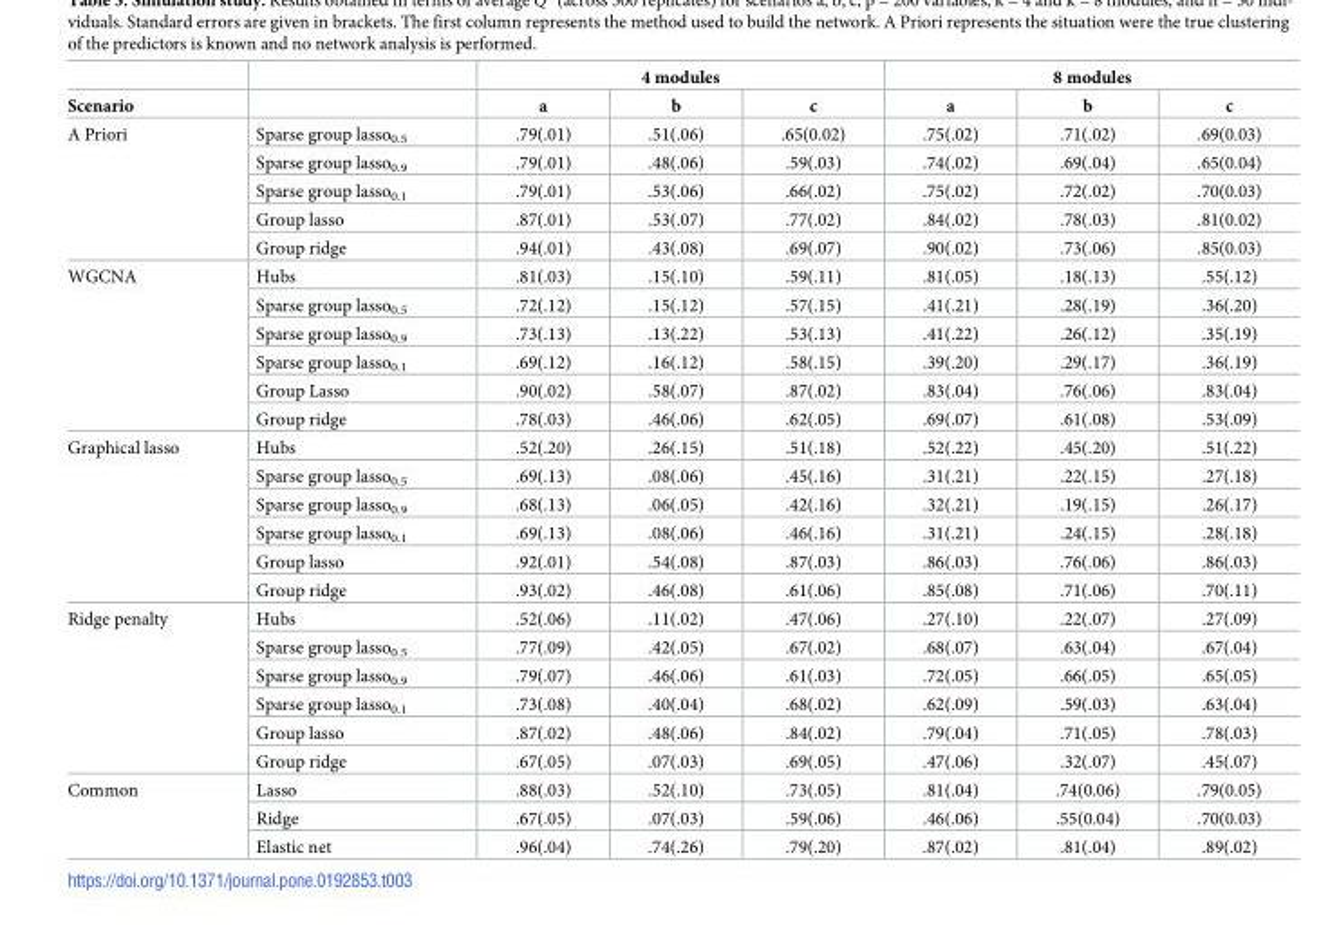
<table><thead><tr><td rowspan="2">Scenario</td><td rowspan="2"></td><td colspan="3">4 modules</td><td colspan="3">8 modules</td></tr><tr><td>a</td><td>b</td><td>c</td><td>a</td><td>b</td><td>c</td></tr></thead><tbody><tr><td rowspan="5">A Priori</td><td>Sparse group lasso<sub>0.5</sub></td><td>.79(.01)</td><td>.51(.06)</td><td>.65(0.02)</td><td>.75(.02)</td><td>.71(.02)</td><td>.69(0.03)</td></tr><tr><td>Sparse group lasso<sub>0.9</sub></td><td>.79(.01)</td><td>.48(.06)</td><td>.59(.03)</td><td>.74(.02)</td><td>.69(.04)</td><td>.65(0.04)</td></tr><tr><td>Sparse group lasso<sub>0.1</sub></td><td>.79(.01)</td><td>.53(.06)</td><td>.66(.02)</td><td>.75(.02)</td><td>.72(.02)</td><td>.70(0.03)</td></tr><tr><td>Group lasso</td><td>.87(.01)</td><td>.53(.07)</td><td>.77(.02)</td><td>.84(.02)</td><td>.78(.03)</td><td>.81(0.02)</td></tr><tr><td>Group ridge</td><td>.94(.01)</td><td>.43(.08)</td><td>.69(.07)</td><td>.90(.02)</td><td>.73(.06)</td><td>.85(0.03)</td></tr><tr><td rowspan="6">WGCNA</td><td>Hubs</td><td>.81(.03)</td><td>.15(.10)</td><td>.59(.11)</td><td>.81(.05)</td><td>.18(.13)</td><td>.55(.12)</td></tr><tr><td>Sparse group lasso<sub>0.5</sub></td><td>.72(.12)</td><td>.15(.12)</td><td>.57(.15)</td><td>.41(.21)</td><td>.28(.19)</td><td>.36(.20)</td></tr><tr><td>Sparse group lasso<sub>0.9</sub></td><td>.73(.13)</td><td>.13(.22)</td><td>.53(.13)</td><td>.41(.22)</td><td>.26(.12)</td><td>.35(.19)</td></tr><tr><td>Sparse group lasso<sub>0.1</sub></td><td>.69(.12)</td><td>.16(.12)</td><td>.58(.15)</td><td>.39(.20)</td><td>.29(.17)</td><td>.36(.19)</td></tr><tr><td>Group Lasso</td><td>.90(.02)</td><td>.58(.07)</td><td>.87(.02)</td><td>.83(.04)</td><td>.76(.06)</td><td>.83(.04)</td></tr><tr><td>Group ridge</td><td>.78(.03)</td><td>.46(.06)</td><td>.62(.05)</td><td>.69(.07)</td><td>.61(.08)</td><td>.53(.09)</td></tr><tr><td rowspan="6">Graphical lasso</td><td>Hubs</td><td>.52(.20)</td><td>.26(.15)</td><td>.51(.18)</td><td>.52(.22)</td><td>.45(.20)</td><td>.51(.22)</td></tr><tr><td>Sparse group lasso<sub>0.5</sub></td><td>.69(.13)</td><td>.08(.06)</td><td>.45(.16)</td><td>.31(.21)</td><td>.22(.15)</td><td>.27(.18)</td></tr><tr><td>Sparse group lasso<sub>0.9</sub></td><td>.68(.13)</td><td>.06(.05)</td><td>.42(.16)</td><td>.32(.21)</td><td>.19(.15)</td><td>.26(.17)</td></tr><tr><td>Sparse group lasso<sub>0.1</sub></td><td>.69(.13)</td><td>.08(.06)</td><td>.46(.16)</td><td>.31(.21)</td><td>.24(.15)</td><td>.28(.18)</td></tr><tr><td>Group lasso</td><td>.92(.01)</td><td>.54(.08)</td><td>.87(.03)</td><td>.86(.03)</td><td>.76(.06)</td><td>.86(.03)</td></tr><tr><td>Group ridge</td><td>.93(.02)</td><td>.46(.08)</td><td>.61(.06)</td><td>.85(.08)</td><td>.71(.06)</td><td>.70(.11)</td></tr><tr><td rowspan="6">Ridge penalty</td><td>Hubs</td><td>.52(.06)</td><td>.11(.02)</td><td>.47(.06)</td><td>.27(.10)</td><td>.22(.07)</td><td>.27(.09)</td></tr><tr><td>Sparse group lasso<sub>0.5</sub></td><td>.77(.09)</td><td>.42(.05)</td><td>.67(.02)</td><td>.68(.07)</td><td>.63(.04)</td><td>.67(.04)</td></tr><tr><td>Sparse group lasso<sub>0.9</sub></td><td>.79(.07)</td><td>.46(.06)</td><td>.61(.03)</td><td>.72(.05)</td><td>.66(.05)</td><td>.65(.05)</td></tr><tr><td>Sparse group lasso<sub>0.1</sub></td><td>.73(.08)</td><td>.40(.04)</td><td>.68(.02)</td><td>.62(.09)</td><td>.59(.03)</td><td>.63(.04)</td></tr><tr><td>Group lasso</td><td>.87(.02)</td><td>.48(.06)</td><td>.84(.02)</td><td>.79(.04)</td><td>.71(.05)</td><td>.78(.03)</td></tr><tr><td>Group ridge</td><td>.67(.05)</td><td>.07(.03)</td><td>.69(.05)</td><td>.47(.06)</td><td>.32(.07)</td><td>.45(.07)</td></tr><tr><td rowspan="3">Common</td><td>Lasso</td><td>.88(.03)</td><td>.52(.10)</td><td>.73(.05)</td><td>.81(.04)</td><td>.74(0.06)</td><td>.79(0.05)</td></tr><tr><td>Ridge</td><td>.67(.05)</td><td>.07(.03)</td><td>.59(.06)</td><td>.46(.06)</td><td>.55(0.04)</td><td>.70(0.03)</td></tr><tr><td>Elastic net</td><td>.96(.04)</td><td>.74(.26)</td><td>.79(.20)</td><td>.87(.02)</td><td>.81(.04)</td><td>.89(.02)</td></tr></tbody></table>